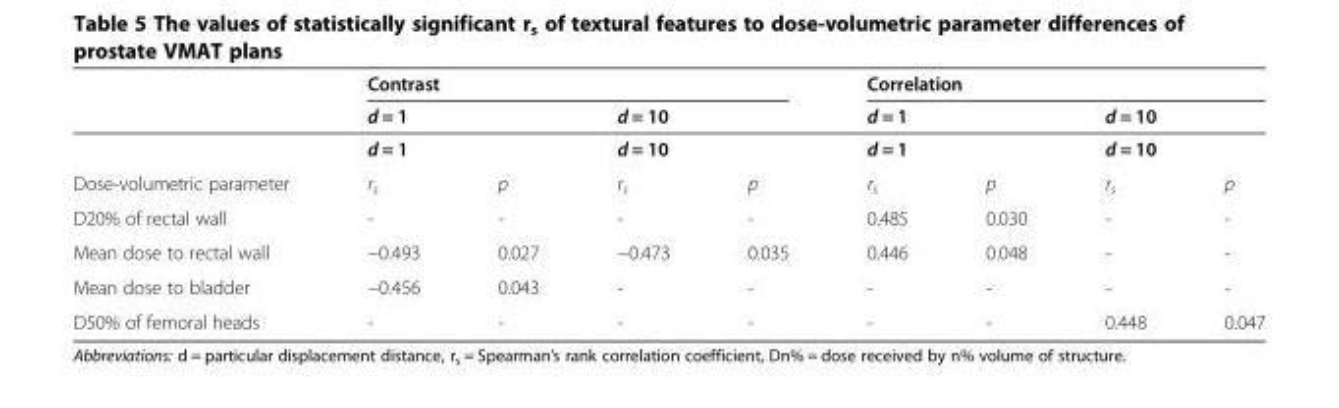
<table><thead><tr><td rowspan="4">Dose-volumetric parameter</td><td colspan="4">Contrast</td><td colspan="4">Correlation</td></tr><tr><td rowspan="2" colspan="2">d = 1 d = 1</td><td rowspan="2" colspan="2">d = 10 d = 10</td><td rowspan="2" colspan="2">d = 1 d = 1</td><td rowspan="2" colspan="2">d = 10 d = 10</td></tr><tr></tr><tr><td>r<sub>s</sub></td><td>p</td><td>r<sub>s</sub></td><td>p</td><td>r<sub>s</sub></td><td>p</td><td>r<sub>s</sub></td><td>p</td></tr></thead><tbody><tr><td>D20% of rectal wall</td><td>-</td><td>-</td><td>-</td><td>-</td><td>0.485</td><td>0.030</td><td>-</td><td>-</td></tr><tr><td>Mean dose to rectal wall</td><td>−0.493</td><td>0.027</td><td>−0.473</td><td>0.035</td><td>0.446</td><td>0.048</td><td>-</td><td>-</td></tr><tr><td>Mean dose to bladder</td><td>−0.456</td><td>0.043</td><td>-</td><td>-</td><td>-</td><td>-</td><td>-</td><td>-</td></tr><tr><td>D50% of femoral heads</td><td>-</td><td>-</td><td>-</td><td>-</td><td>-</td><td>-</td><td>0.448</td><td>0.047</td></tr></tbody></table>